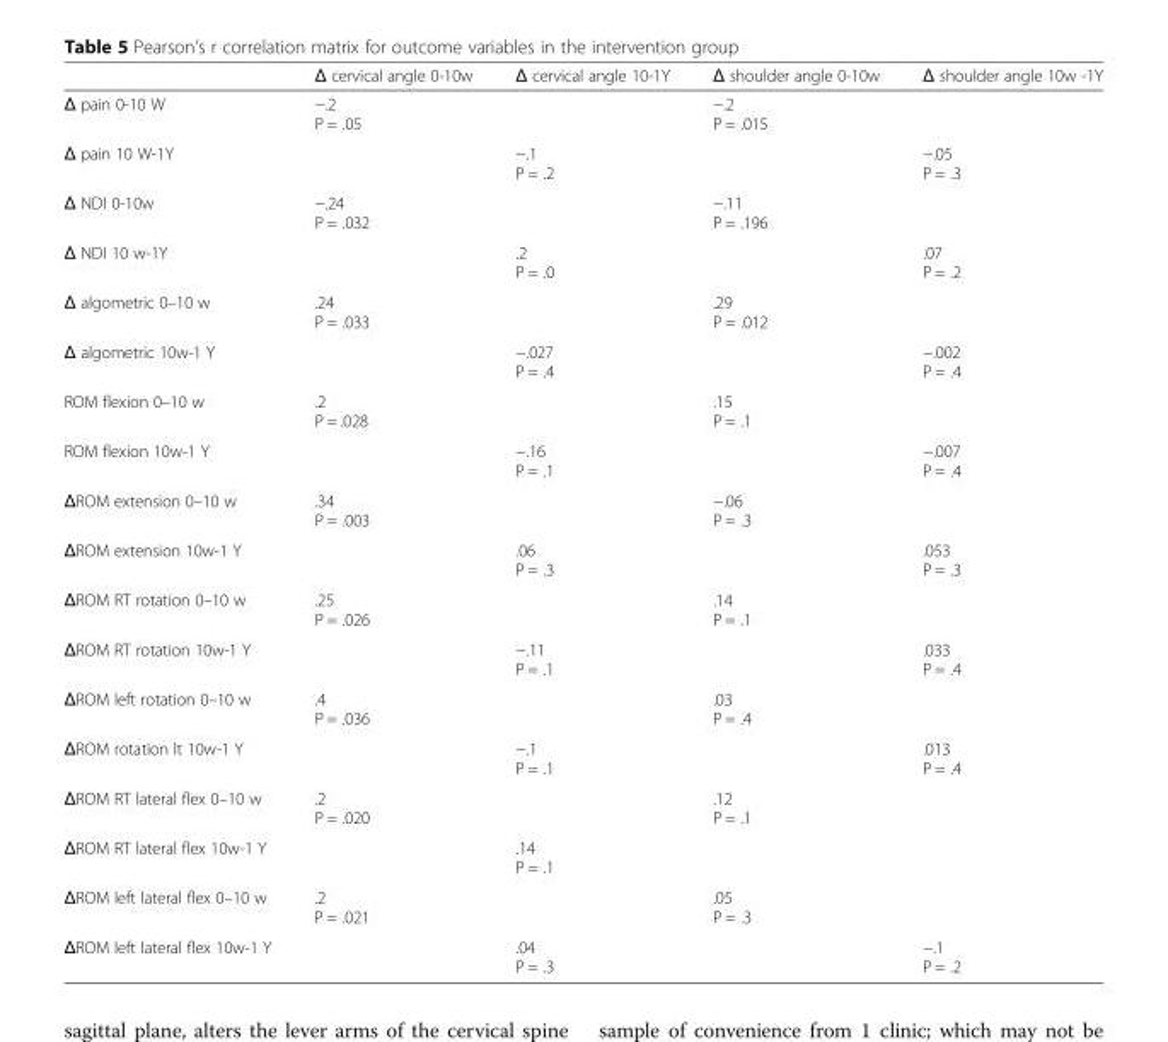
<table><thead><tr><td></td><td>Δ cervical angle 0-10w</td><td>Δ cervical angle 10-1Y</td><td>Δ shoulder angle 0-10w</td><td>Δ shoulder angle 10w -1Y</td></tr></thead><tbody><tr><td>Δ pain 0-10 W</td><td>−.2 P = .05</td><td></td><td>−.2 P = .015</td><td></td></tr><tr><td>Δ pain 10 W-1Y</td><td></td><td>−.1 P = .2</td><td></td><td>−.05 P = .3</td></tr><tr><td>Δ NDI 0-10w</td><td>−.24 P = .032</td><td></td><td>−.11 P = .196</td><td></td></tr><tr><td>Δ NDI 10 w-1Y</td><td></td><td>.2 P = .0</td><td></td><td>.07 P = .2</td></tr><tr><td>Δ algometric 0–10 w</td><td>.24 P = .033</td><td></td><td>.29 P = .012</td><td></td></tr><tr><td>Δ algometric 10w-1 Y</td><td></td><td>−.027 P = .4</td><td></td><td>−.002 P = .4</td></tr><tr><td>ROM flexion 0–10 w</td><td>.2 P = .028</td><td></td><td>.15 P = .1</td><td></td></tr><tr><td>ROM flexion 10w-1 Y</td><td></td><td>−.16 P = .1</td><td></td><td>−.007 P = .4</td></tr><tr><td>ΔROM extension 0–10 w</td><td>.34 P = .003</td><td></td><td>−.06 P = .3</td><td></td></tr><tr><td>ΔROM extension 10w-1 Y</td><td></td><td>.06 P = .3</td><td></td><td>.053 P = .3</td></tr><tr><td>ΔROM RT rotation 0–10 w</td><td>.25 P = .026</td><td></td><td>.14 P = .1</td><td></td></tr><tr><td>ΔROM RT rotation 10w-1 Y</td><td></td><td>−.11 P = .1</td><td></td><td>.033 P = .4</td></tr><tr><td>ΔROM left rotation 0–10 w</td><td>.4 P = .036</td><td></td><td>.03 P = .4</td><td></td></tr><tr><td>ΔROM rotation lt 10w-1 Y</td><td></td><td>−.1 P = .1</td><td></td><td>.013 P = .4</td></tr><tr><td>ΔROM RT lateral flex 0–10 w</td><td>.2 P = .020</td><td></td><td>.12 P = .1</td><td></td></tr><tr><td>ΔROM RT lateral flex 10w-1 Y</td><td></td><td>.14 P = .1</td><td></td><td></td></tr><tr><td>ΔROM left lateral flex 0–10 w</td><td>.2 P = .021</td><td></td><td>.05 P = .3</td><td></td></tr><tr><td>ΔROM left lateral flex 10w-1 Y</td><td></td><td>.04 P = .3</td><td></td><td>−.1 P = .2</td></tr></tbody></table>